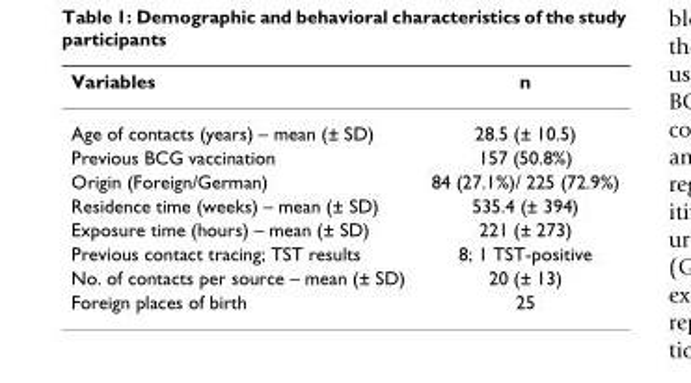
<table><thead><tr><td>Variables</td><td>n</td></tr></thead><tbody><tr><td>Age of contacts (years) – mean (± SD)</td><td>28.5 (± 10.5)</td></tr><tr><td>Previous BCG vaccination</td><td>157 (50.8%)</td></tr><tr><td>Origin (Foreign/German)</td><td>84 (27.1%)/ 225 (72.9%)</td></tr><tr><td>Residence time (weeks) – mean (± SD)</td><td>535.4 (± 394)</td></tr><tr><td>Exposure time (hours) – mean (± SD)</td><td>221 (± 273)</td></tr><tr><td>Previous contact tracing; TST results</td><td>8; 1 TST-positive</td></tr><tr><td>No. of contacts per source – mean (± SD)</td><td>20 (± 13)</td></tr><tr><td>Foreign places of birth</td><td>25</td></tr></tbody></table>